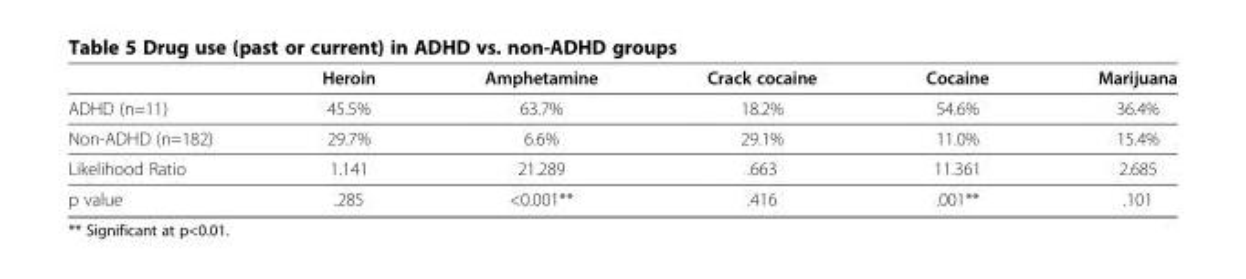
<table><thead><tr><td></td><td>Heroin</td><td>Amphetamine</td><td>Crack cocaine</td><td>Cocaine</td><td>Marijuana</td></tr></thead><tbody><tr><td>ADHD (n=11)</td><td>45.5%</td><td>63.7%</td><td>18.2%</td><td>54.6%</td><td>36.4%</td></tr><tr><td>Non-ADHD (n=182)</td><td>29.7%</td><td>6.6%</td><td>29.1%</td><td>11.0%</td><td>15.4%</td></tr><tr><td>Likelihood Ratio</td><td>1.141</td><td>21.289</td><td>.663</td><td>11.361</td><td>2.685</td></tr><tr><td>p value</td><td>.285</td><td>&lt;0.001**</td><td>.416</td><td>.001**</td><td>.101</td></tr></tbody></table>